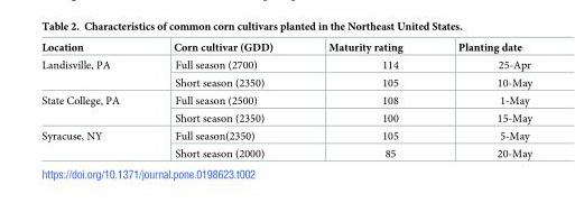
<table><thead><tr><td>Location</td><td>Corn cultivar (GDD)</td><td>Maturity rating</td><td>Planting date</td></tr></thead><tbody><tr><td rowspan="2">Landisville, PA</td><td>Full season (2700)</td><td>114</td><td>25-Apr</td></tr><tr><td>Short season (2350)</td><td>105</td><td>10-May</td></tr><tr><td rowspan="2">State College, PA</td><td>Full season (2500)</td><td>108</td><td>1-May</td></tr><tr><td>Short season (2350)</td><td>100</td><td>15-May</td></tr><tr><td rowspan="2">Syracuse, NY</td><td>Full season(2350)</td><td>105</td><td>5-May</td></tr><tr><td>Short season (2000)</td><td>85</td><td>20-May</td></tr></tbody></table>